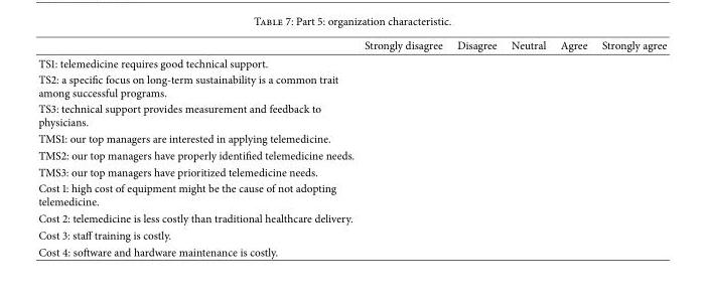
<table><thead><tr><td></td><td>Strongly disagree</td><td>Disagree</td><td>Neutral</td><td>Agree</td><td>Strongly agree</td></tr></thead><tbody><tr><td colspan="6">TS1: telemedicine requires good technical support.</td></tr><tr><td colspan="6">TS2: a specific focus on long-term sustainability is a common trait among successful programs.</td></tr><tr><td colspan="6">TS3: technical support provides measurement and feedback to physicians.</td></tr><tr><td colspan="6">TMS1: our top managers are interested in applying telemedicine.</td></tr><tr><td colspan="6">TMS2: our top managers have properly identified telemedicine needs.</td></tr><tr><td colspan="6">TMS3: our top managers have prioritized telemedicine needs.</td></tr><tr><td colspan="6">Cost 1: high cost of equipment might be the cause of not adopting telemedicine.</td></tr><tr><td colspan="6">Cost 2: telemedicine is less costly than traditional healthcare delivery.</td></tr><tr><td colspan="6">Cost 3: staff training is costly.</td></tr><tr><td>Cost 4: software and hardware maintenance is costly.</td><td></td><td></td><td></td><td></td><td></td></tr></tbody></table>